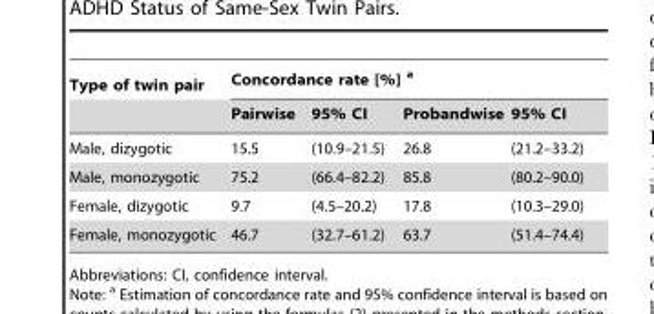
<table><thead><tr><td rowspan="2">Type of twin pair</td><td colspan="4">Concordance rate [%] <sup>a</sup></td></tr><tr><td>Pairwise</td><td>95% CI</td><td>Probandwise</td><td>95% CI</td></tr></thead><tbody><tr><td>Male, dizygotic</td><td>15.5</td><td>(10.9–21.5)</td><td>26.8</td><td>(21.2–33.2)</td></tr><tr><td>Male, monozygotic</td><td>75.2</td><td>(66.4–82.2)</td><td>85.8</td><td>(80.2–90.0)</td></tr><tr><td>Female, dizygotic</td><td>9.7</td><td>(4.5–20.2)</td><td>17.8</td><td>(10.3–29.0)</td></tr><tr><td>Female, monozygotic</td><td>46.7</td><td>(32.7–61.2)</td><td>63.7</td><td>(51.4–74.4)</td></tr></tbody></table>